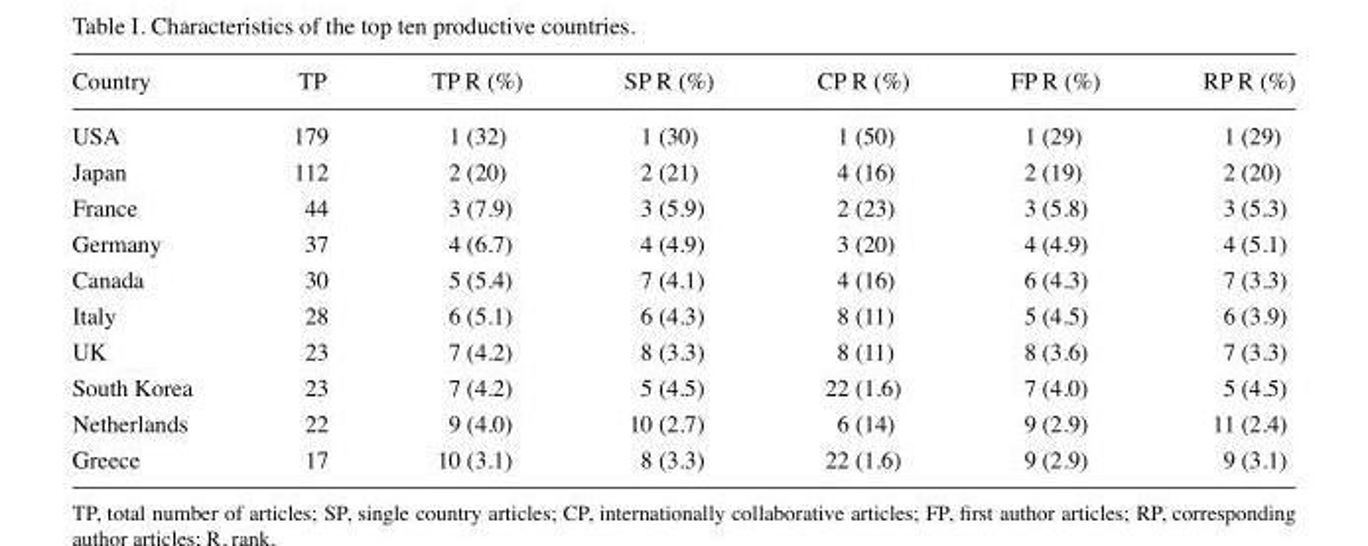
<table><thead><tr><td>Country</td><td>TP</td><td>TP R (%)</td><td>SP R (%)</td><td>CP R (%)</td><td>FP R (%)</td><td>RP R (%)</td></tr></thead><tbody><tr><td>USA</td><td>179</td><td>1 (32)</td><td>1 (30)</td><td>1 (50)</td><td>1 (29)</td><td>1 (29)</td></tr><tr><td>Japan</td><td>112</td><td>2 (20)</td><td>2 (21)</td><td>4 (16)</td><td>2 (19)</td><td>2 (20)</td></tr><tr><td>France</td><td>44</td><td>3 (7.9)</td><td>3 (5.9)</td><td>2 (23)</td><td>3 (5.8)</td><td>3 (5.3)</td></tr><tr><td>Germany</td><td>37</td><td>4 (6.7)</td><td>4 (4.9)</td><td>3 (20)</td><td>4 (4.9)</td><td>4 (5.1)</td></tr><tr><td>Canada</td><td>30</td><td>5 (5.4)</td><td>7 (4.1)</td><td>4 (16)</td><td>6 (4.3)</td><td>7 (3.3)</td></tr><tr><td>Italy</td><td>28</td><td>6 (5.1)</td><td>6 (4.3)</td><td>8 (11)</td><td>5 (4.5)</td><td>6 (3.9)</td></tr><tr><td>UK</td><td>23</td><td>7 (4.2)</td><td>8 (3.3)</td><td>8 (11)</td><td>8 (3.6)</td><td>7 (3.3)</td></tr><tr><td>South Korea</td><td>23</td><td>7 (4.2)</td><td>5 (4.5)</td><td>22 (1.6)</td><td>7 (4.0)</td><td>5 (4.5)</td></tr><tr><td>Netherlands</td><td>22</td><td>9 (4.0)</td><td>10 (2.7)</td><td>6 (14)</td><td>9 (2.9)</td><td>11 (2.4)</td></tr><tr><td>Greece</td><td>17</td><td>10 (3.1)</td><td>8 (3.3)</td><td>22 (1.6)</td><td>9 (2.9)</td><td>9 (3.1)</td></tr></tbody></table>